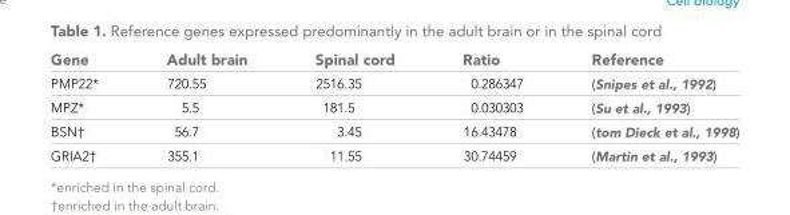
<table><thead><tr><td>Gene</td><td>Adult brain</td><td>Spinal cord</td><td>Ratio</td><td>Reference</td></tr></thead><tbody><tr><td>PMP22*</td><td>720.55</td><td>2516.35</td><td>0.286347</td><td>(Snipes et al., 1992)</td></tr><tr><td>MPZ*</td><td>5.5</td><td>181.5</td><td>0.030303</td><td>(Su et al., 1993)</td></tr><tr><td>BSN†</td><td>56.7</td><td>3.45</td><td>16.43478</td><td>(tom Dieck et al., 1998)</td></tr><tr><td>GRIA2†</td><td>355.1</td><td>11.55</td><td>30.74459</td><td>(Martin et al., 1993)</td></tr></tbody></table>